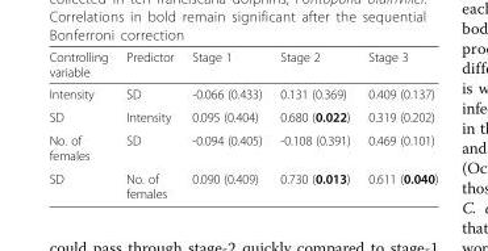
<table><thead><tr><td>Controlling variable</td><td>Predictor</td><td>Stage 1</td><td>Stage 2</td><td>Stage 3</td></tr></thead><tbody><tr><td>Intensity</td><td>SD</td><td>-0.066 (0.433)</td><td>0.131 (0.369)</td><td>0.409 (0.137)</td></tr><tr><td>SD</td><td>Intensity</td><td>0.095 (0.404)</td><td>0.680 (0.022)</td><td>0.319 (0.202)</td></tr><tr><td>No. of females</td><td>SD</td><td>-0.094 (0.405)</td><td>-0.108 (0.391)</td><td>0.469 (0.101)</td></tr><tr><td>SD</td><td>No. of females</td><td>0.090 (0.409)</td><td>0.730 (0.013)</td><td>0.611 (0.040)</td></tr></tbody></table>